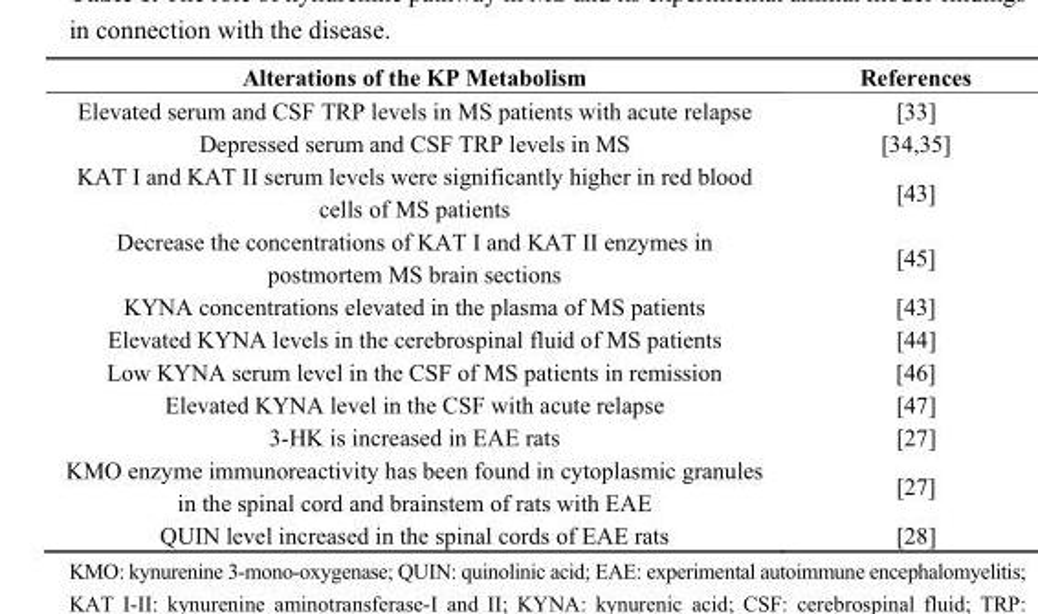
<table><thead><tr><td>Alterations of the KP Metabolism</td><td>References</td></tr></thead><tbody><tr><td>Elevated serum and CSF TRP levels in MS patients with acute relapse</td><td>[33]</td></tr><tr><td>Depressed serum and CSF TRP levels in MS</td><td>[34,35]</td></tr><tr><td>KAT I and KAT II serum levels were significantly higher in red blood cells of MS patients</td><td>[43]</td></tr><tr><td>Decrease the concentrations of KAT I and KAT II enzymes in postmortem MS brain sections</td><td>[45]</td></tr><tr><td>KYNA concentrations elevated in the plasma of MS patients</td><td>[43]</td></tr><tr><td>Elevated KYNA levels in the cerebrospinal fluid of MS patients</td><td>[44]</td></tr><tr><td>Low KYNA serum level in the CSF of MS patients in remission</td><td>[46]</td></tr><tr><td>Elevated KYNA level in the CSF with acute relapse</td><td>[47]</td></tr><tr><td>3-HK is increased in EAE rats</td><td>[27]</td></tr><tr><td>KMO enzyme immunoreactivity has been found in cytoplasmic granules in the spinal cord and brainstem of rats with EAE</td><td>[27]</td></tr><tr><td>QUIN level increased in the spinal cords of EAE rats</td><td>[28]</td></tr></tbody></table>